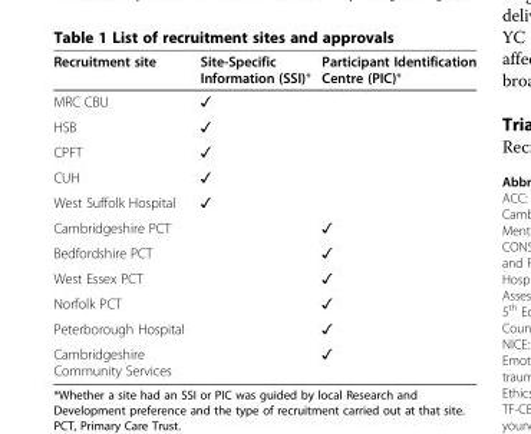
<table><thead><tr><td>Recruitment site</td><td>Site-Specific Information (SSI)*</td><td>Participant Identification Centre (PIC)*</td></tr></thead><tbody><tr><td>MRC CBU</td><td>✓</td><td></td></tr><tr><td>HSB</td><td>✓</td><td></td></tr><tr><td>CPFT</td><td>✓</td><td></td></tr><tr><td>CUH</td><td>✓</td><td></td></tr><tr><td>West Suffolk Hospital</td><td>✓</td><td></td></tr><tr><td>Cambridgeshire PCT</td><td></td><td>✓</td></tr><tr><td>Bedfordshire PCT</td><td></td><td>✓</td></tr><tr><td>West Essex PCT</td><td></td><td>✓</td></tr><tr><td>Norfolk PCT</td><td></td><td>✓</td></tr><tr><td>Peterborough Hospital</td><td></td><td>✓</td></tr><tr><td>Cambridgeshire Community Services</td><td></td><td>✓</td></tr></tbody></table>